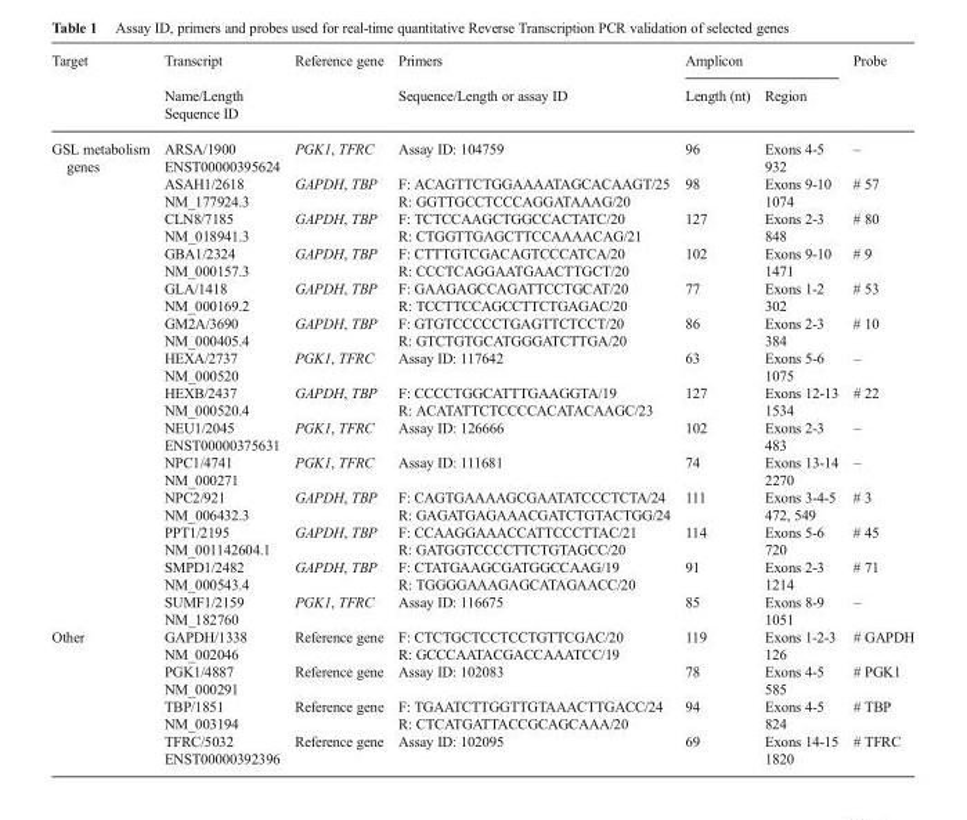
<table><thead><tr><td rowspan="2">Target</td><td rowspan="2">Transcript Name/Length Sequence ID</td><td rowspan="2">Reference gene</td><td rowspan="2">Primers Sequence/Length or assay ID</td><td colspan="2">Amplicon</td><td rowspan="2">Probe</td></tr><tr><td>Length (nt)</td><td>Region</td></tr></thead><tbody><tr><td rowspan="14">GSL metabolism genes</td><td>ARSA/1900 ENST00000395624</td><td>PGK1, TFRC</td><td>Assay ID: 104759</td><td>96</td><td>Exons 4-5 932</td><td>–</td></tr><tr><td>ASAH1/2618 NM_177924.3</td><td>GAPDH, TBP</td><td>F: ACAGTTCTGGAAAATAGCACAAGT/25 R: GGTTGCCTCCCAGGATAAAG/20</td><td>98</td><td>Exons 9-10 1074</td><td># 57</td></tr><tr><td>CLN8/7185 NM_018941.3</td><td>GAPDH, TBP</td><td>F: TCTCCAAGCTGGCCACTATC/20 R: CTGGTTGAGCTTCCAAAACAG/21</td><td>127</td><td>Exons 2-3 848</td><td># 80</td></tr><tr><td>GBA1/2324 NM_000157.3</td><td>GAPDH, TBP</td><td>F: CTTTGTCGACAGTCCCATCA/20 R: CCCTCAGGAATGAACTTGCT/20</td><td>102</td><td>Exons 9-10 1471</td><td># 9</td></tr><tr><td>GLA/1418 NM_000169.2</td><td>GAPDH, TBP</td><td>F: GAAGAGCCAGATTCCTGCAT/20 R: TCCTTCCAGCCTTCTGAGAC/20</td><td>77</td><td>Exons 1-2 302</td><td># 53</td></tr><tr><td>GM2A/3690 NM_000405.4</td><td>GAPDH, TBP</td><td>F: GTGTCCCCCTGAGTTCTCCT/20 R: GTCTGTGCATGGGATCTTGA/20</td><td>86</td><td>Exons 2-3 384</td><td># 10</td></tr><tr><td>HEXA/2737 NM_000520</td><td>PGK1, TFRC</td><td>Assay ID: 117642</td><td>63</td><td>Exons 5-6 1075</td><td>–</td></tr><tr><td>HEXB/2437 NM_000520.4</td><td>GAPDH, TBP</td><td>F: CCCCTGGCATTTGAAGGTA/19 R: ACATATTCTCCCCACATACAAGC/23</td><td>127</td><td>Exons 12-13 1534</td><td># 22</td></tr><tr><td>NEU1/2045 ENST00000375631</td><td>PGK1, TFRC</td><td>Assay ID: 126666</td><td>102</td><td>Exons 2-3 483</td><td>–</td></tr><tr><td>NPC1/4741 NM_000271</td><td>PGK1, TFRC</td><td>Assay ID: 111681</td><td>74</td><td>Exons 13-14 2270</td><td>–</td></tr><tr><td>NPC2/921 NM_006432.3</td><td>GAPDH, TBP</td><td>F: CAGTGAAAAGCGAATATCCCTCTA/24 R: GAGATGAGAAACGATCTGTACTGG/24</td><td>111</td><td>Exons 3-4-5 472, 549</td><td># 3</td></tr><tr><td>PPT1/2195 NM_001142604.1</td><td>GAPDH, TBP</td><td>F: CCAAGGAAACCATTCCCTTAC/21 R: GATGGTCCCCTTCTGTAGCC/20</td><td>114</td><td>Exons 5-6 720</td><td># 45</td></tr><tr><td>SMPD1/2482 NM_000543.4</td><td>GAPDH, TBP</td><td>F: CTATGAAGCGATGGCCAAG/19 R: TGGGGAAAGAGCATAGAACC/20</td><td>91</td><td>Exons 2-3 1214</td><td># 71</td></tr><tr><td>SUMF1/2159 NM_182760</td><td>PGK1, TFRC</td><td>Assay ID: 116675</td><td>85</td><td>Exons 8-9 1051</td><td>–</td></tr><tr><td rowspan="4">Other</td><td>GAPDH/1338 NM_002046</td><td>Reference gene</td><td>F: CTCTGCTCCTCCTGTTCGAC/20 R: GCCCAATACGACCAAATCC/19</td><td>119</td><td>Exons 1-2-3 126</td><td># GAPDH</td></tr><tr><td>PGK1/4887 NM_000291</td><td>Reference gene</td><td>Assay ID: 102083</td><td>78</td><td>Exons 4-5 585</td><td># PGK1</td></tr><tr><td>TBP/1851 NM_003194</td><td>Reference gene</td><td>F: TGAATCTTGGTTGTAAACTTGACC/24 R: CTCATGATTACCGCAGCAAA/20</td><td>94</td><td>Exons 4-5 824</td><td># TBP</td></tr><tr><td>TFRC/5032 ENST00000392396</td><td>Reference gene</td><td>Assay ID: 102095</td><td>69</td><td>Exons 14-15 1820</td><td># TFRC</td></tr></tbody></table>